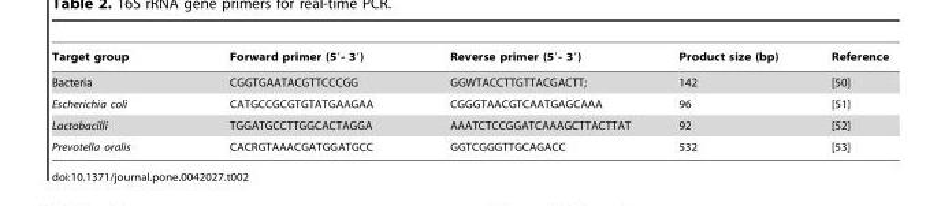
<table><thead><tr><td>Target group</td><td>Forward primer (5′- 3′)</td><td>Reverse primer (5′- 3′)</td><td>Product size (bp)</td><td>Reference</td></tr></thead><tbody><tr><td>Bacteria</td><td>CGGTGAATACGTTCCCGG</td><td>GGWTACCTTGTTACGACTT;</td><td>142</td><td>[50]</td></tr><tr><td>Escherichia coli</td><td>CATGCCGCGTGTATGAAGAA</td><td>CGGGTAACGTCAATGAGCAAA</td><td>96</td><td>[51]</td></tr><tr><td>Lactobacilli</td><td>TGGATGCCTTGGCACTAGGA</td><td>AAATCTCCGGATCAAAGCTTACTTAT</td><td>92</td><td>[52]</td></tr><tr><td>Prevotella oralis</td><td>CACRGTAAACGATGGATGCC</td><td>GGTCGGGTTGCAGACC</td><td>532</td><td>[53]</td></tr></tbody></table>